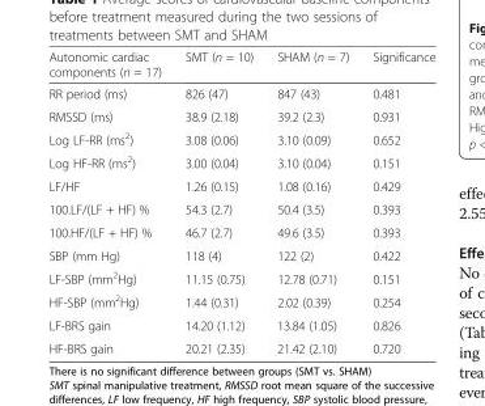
<table><thead><tr><td>Autonomic cardiac components (n = 17)</td><td>SMT (n = 10)</td><td>SHAM (n = 7)</td><td>Significance</td></tr></thead><tbody><tr><td>RR period (ms)</td><td>826 (47)</td><td>847 (43)</td><td>0.481</td></tr><tr><td>RMSSD (ms)</td><td>38.9 (2.18)</td><td>39.2 (2.3)</td><td>0.931</td></tr><tr><td>Log LF-RR (ms<sup>2</sup>)</td><td>3.08 (0.06)</td><td>3.10 (0.09)</td><td>0.652</td></tr><tr><td>Log HF-RR (ms<sup>2</sup>)</td><td>3.00 (0.04)</td><td>3.10 (0.04)</td><td>0.151</td></tr><tr><td>LF/HF</td><td>1.26 (0.15)</td><td>1.08 (0.16)</td><td>0.429</td></tr><tr><td>100.LF/(LF + HF) %</td><td>54.3 (2.7)</td><td>50.4 (3.5)</td><td>0.393</td></tr><tr><td>100.HF/(LF + HF) %</td><td>46.7 (2.7)</td><td>49.6 (3.5)</td><td>0.393</td></tr><tr><td>SBP (mm Hg)</td><td>118 (4)</td><td>122 (2)</td><td>0.422</td></tr><tr><td>LF-SBP (mm<sup>2</sup>Hg)</td><td>11.15 (0.75)</td><td>12.78 (0.71)</td><td>0.151</td></tr><tr><td>HF-SBP (mm<sup>2</sup>Hg)</td><td>1.44 (0.31)</td><td>2.02 (0.39)</td><td>0.254</td></tr><tr><td>LF-BRS gain</td><td>14.20 (1.12)</td><td>13.84 (1.05)</td><td>0.826</td></tr><tr><td>HF-BRS gain</td><td>20.21 (2.35)</td><td>21.42 (2.10)</td><td>0.720</td></tr></tbody></table>